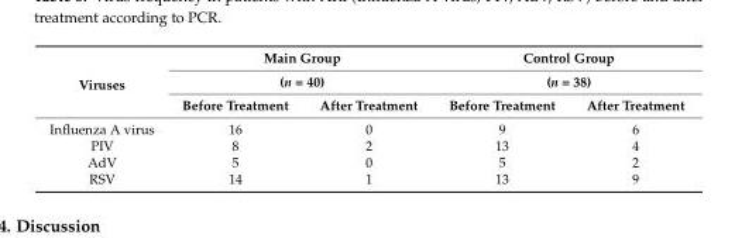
<table><thead><tr><td rowspan="3">Viruses</td><td rowspan="2" colspan="2">Main Group (n = 40)</td><td rowspan="2" colspan="2">Control Group (n = 38)</td></tr><tr></tr><tr><td>Before Treatment</td><td>After Treatment</td><td>Before Treatment</td><td>After Treatment</td></tr></thead><tbody><tr><td>Influenza A virus</td><td>16</td><td>0</td><td>9</td><td>6</td></tr><tr><td>PIV</td><td>8</td><td>2</td><td>13</td><td>4</td></tr><tr><td>AdV</td><td>5</td><td>0</td><td>5</td><td>2</td></tr><tr><td>RSV</td><td>14</td><td>1</td><td>13</td><td>9</td></tr></tbody></table>